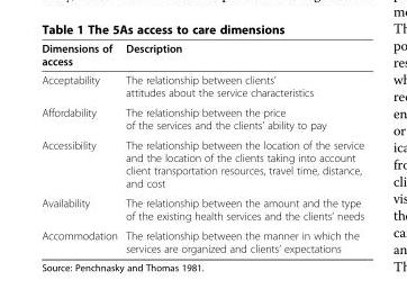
<table><thead><tr><td>Dimensions of access</td><td>Description</td></tr></thead><tbody><tr><td>Acceptability</td><td>The relationship between clients’ attitudes about the service characteristics</td></tr><tr><td>Affordability</td><td>The relationship between the price of the services and the clients’ ability to pay</td></tr><tr><td>Accessibility</td><td>The relationship between the location of the service and the location of the clients taking into account client transportation resources, travel time, distance, and cost</td></tr><tr><td>Availability</td><td>The relationship between the amount and the type of the existing health services and the clients’ needs</td></tr><tr><td>Accommodation</td><td>The relationship between the manner in which the services are organized and clients’ expectations</td></tr></tbody></table>